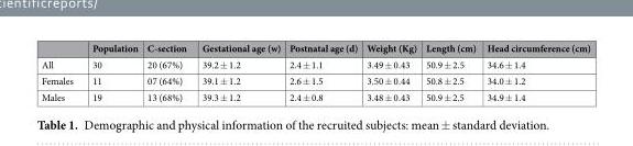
<table><thead><tr><td></td><td>Population</td><td>C-section</td><td>Gestational age (w)</td><td>Postnatal age (d)</td><td>Weight (Kg)</td><td>Length (cm)</td><td>Head circumference (cm)</td></tr></thead><tbody><tr><td>All</td><td>30</td><td>20 (67%)</td><td>39.2 ± 1.2</td><td>2.4 ± 1.1</td><td>3.49 ± 0.43</td><td>50.9 ± 2.5</td><td>34.6 ± 1.4</td></tr><tr><td>Females</td><td>11</td><td>07 (64%)</td><td>39.1 ± 1.2</td><td>2.6 ± 1.5</td><td>3.50 ± 0.44</td><td>50.8 ± 2.5</td><td>34.0 ± 1.2</td></tr><tr><td>Males</td><td>19</td><td>13 (68%)</td><td>39.3 ± 1.2</td><td>2.4 ± 0.8</td><td>3.48 ± 0.43</td><td>50.9 ± 2.5</td><td>34.9 ± 1.4</td></tr></tbody></table>